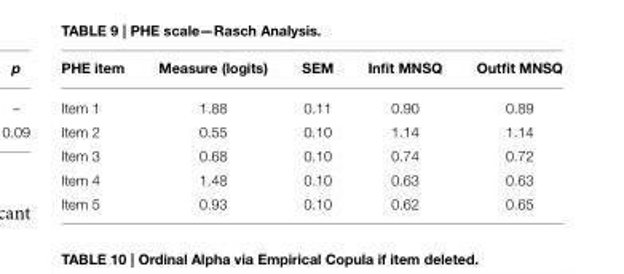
<table><thead><tr><td>PHE item</td><td>Measure (logits)</td><td>SEM</td><td>Infit MNSQ</td><td>Outfit MNSQ</td></tr></thead><tbody><tr><td>Item 1</td><td>1.88</td><td>0.11</td><td>0.90</td><td>0.89</td></tr><tr><td>Item 2</td><td>0.55</td><td>0.10</td><td>1.14</td><td>1.14</td></tr><tr><td>Item 3</td><td>0.68</td><td>0.10</td><td>0.74</td><td>0.72</td></tr><tr><td>Item 4</td><td>1.48</td><td>0.10</td><td>0.63</td><td>0.63</td></tr><tr><td>Item 5</td><td>0.93</td><td>0.10</td><td>0.62</td><td>0.65</td></tr></tbody></table>